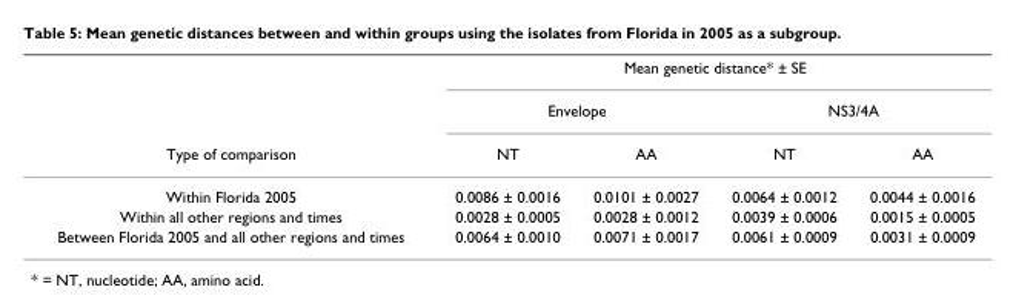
<table><thead><tr><td rowspan="3">Type of comparison</td><td colspan="4">Mean genetic distance* ± SE</td></tr><tr><td colspan="2">Envelope</td><td colspan="2">NS3/4A</td></tr><tr><td>NT</td><td>AA</td><td>NT</td><td>AA</td></tr></thead><tbody><tr><td>Within Florida 2005</td><td>0.0086 ± 0.0016</td><td>0.0101 ± 0.0027</td><td>0.0064 ± 0.0012</td><td>0.0044 ± 0.0016</td></tr><tr><td>Within all other regions and times</td><td>0.0028 ± 0.0005</td><td>0.0028 ± 0.0012</td><td>0.0039 ± 0.0006</td><td>0.0015 ± 0.0005</td></tr><tr><td>Between Florida 2005 and all other regions and times</td><td>0.0064 ± 0.0010</td><td>0.0071 ± 0.0017</td><td>0.0061 ± 0.0009</td><td>0.0031 ± 0.0009</td></tr></tbody></table>